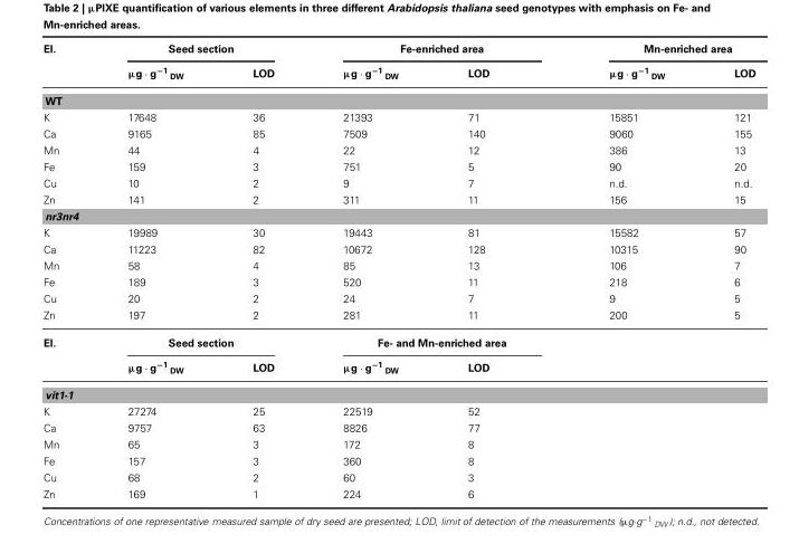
<table><thead><tr><td rowspan="2">El.</td><td colspan="2">Seed section</td><td colspan="2">Fe-enriched area</td><td colspan="2">Mn-enriched area</td></tr><tr><td>µg · g<sup>−1</sup> <sub>DW</sub></td><td>LOD</td><td>µg · g<sup>−1</sup> <sub>DW</sub></td><td>LOD</td><td>µg · g<sup>−1</sup> <sub>DW</sub></td><td>LOD</td></tr></thead><tbody><tr><td colspan="7">WT</td></tr><tr><td>K</td><td>17648</td><td>36</td><td>21393</td><td>71</td><td>15851</td><td>121</td></tr><tr><td>Ca</td><td>9165</td><td>85</td><td>7509</td><td>140</td><td>9060</td><td>155</td></tr><tr><td>Mn</td><td>44</td><td>4</td><td>22</td><td>12</td><td>386</td><td>13</td></tr><tr><td>Fe</td><td>159</td><td>3</td><td>751</td><td>5</td><td>90</td><td>20</td></tr><tr><td>Cu</td><td>10</td><td>2</td><td>9</td><td>7</td><td>n.d.</td><td>n.d.</td></tr><tr><td>Zn</td><td>141</td><td>2</td><td>311</td><td>11</td><td>156</td><td>15</td></tr><tr><td colspan="7">nr3nr4</td></tr><tr><td>K</td><td>19989</td><td>30</td><td>19443</td><td>81</td><td>15582</td><td>57</td></tr><tr><td>Ca</td><td>11223</td><td>82</td><td>10672</td><td>128</td><td>10315</td><td>90</td></tr><tr><td>Mn</td><td>58</td><td>4</td><td>85</td><td>13</td><td>106</td><td>7</td></tr><tr><td>Fe</td><td>189</td><td>3</td><td>520</td><td>11</td><td>218</td><td>6</td></tr><tr><td>Cu</td><td>20</td><td>2</td><td>24</td><td>7</td><td>9</td><td>5</td></tr><tr><td>Zn</td><td>197</td><td>2</td><td>281</td><td>11</td><td>200</td><td>5</td></tr><tr><td rowspan="2">El.</td><td colspan="2">Seed section</td><td colspan="2">Fe- and Mn-enriched area</td><td></td><td></td></tr><tr><td>µg · g<sup>−1</sup> <sub>DW</sub></td><td>LOD</td><td>µg · g<sup>−1</sup> <sub>DW</sub></td><td>LOD</td><td></td><td></td></tr><tr><td colspan="7">vit1-1</td></tr><tr><td>K</td><td>27274</td><td>25</td><td>22519</td><td>52</td><td></td><td></td></tr><tr><td>Ca</td><td>9757</td><td>63</td><td>8826</td><td>77</td><td></td><td></td></tr><tr><td>Mn</td><td>65</td><td>3</td><td>172</td><td>8</td><td></td><td></td></tr><tr><td>Fe</td><td>157</td><td>3</td><td>360</td><td>8</td><td></td><td></td></tr><tr><td>Cu</td><td>68</td><td>2</td><td>60</td><td>3</td><td></td><td></td></tr><tr><td>Zn</td><td>169</td><td>1</td><td>224</td><td>6</td><td></td><td></td></tr></tbody></table>